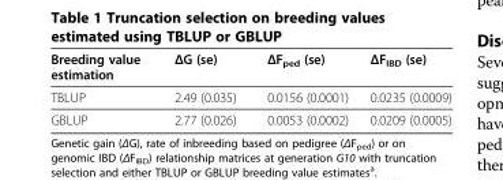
<table><thead><tr><td>Breeding value estimation</td><td>ΔG (se)</td><td>ΔF<sub>ped</sub> (se)</td><td>ΔF<sub>IBD</sub> (se)</td></tr></thead><tbody><tr><td>TBLUP</td><td>2.49 (0.035)</td><td>0.0156 (0.0001)</td><td>0.0235 (0.0009)</td></tr><tr><td>GBLUP</td><td>2.77 (0.026)</td><td>0.0053 (0.0002)</td><td>0.0209 (0.0005)</td></tr></tbody></table>